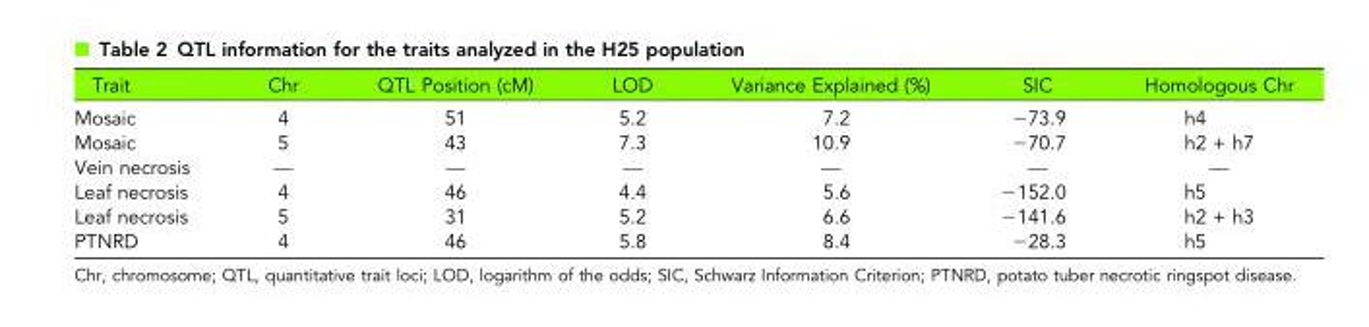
<table><thead><tr><td>Trait</td><td>Chr</td><td>QTL Position (cM)</td><td>LOD</td><td>Variance Explained (%)</td><td>SIC</td><td>Homologous Chr</td></tr></thead><tbody><tr><td>Mosaic</td><td>4</td><td>51</td><td>5.2</td><td>7.2</td><td>−73.9</td><td>h4</td></tr><tr><td>Mosaic</td><td>5</td><td>43</td><td>7.3</td><td>10.9</td><td>−70.7</td><td>h2 + h7</td></tr><tr><td>Vein necrosis</td><td>—</td><td>—</td><td>—</td><td>—</td><td>—</td><td>—</td></tr><tr><td>Leaf necrosis</td><td>4</td><td>46</td><td>4.4</td><td>5.6</td><td>−152.0</td><td>h5</td></tr><tr><td>Leaf necrosis</td><td>5</td><td>31</td><td>5.2</td><td>6.6</td><td>−141.6</td><td>h2 + h3</td></tr><tr><td>PTNRD</td><td>4</td><td>46</td><td>5.8</td><td>8.4</td><td>−28.3</td><td>h5</td></tr></tbody></table>